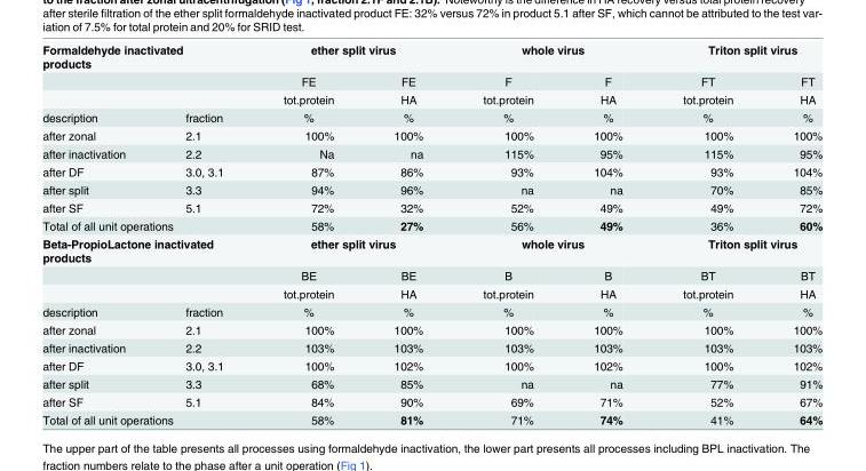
<table><tbody><tr><td rowspan="3" colspan="2">Formaldehyde inactivated products</td><td colspan="2">ether split virus</td><td colspan="2">whole virus</td><td colspan="2">Triton split virus</td></tr><tr><td>FE</td><td>FE</td><td>F</td><td>F</td><td>FT</td><td>FT</td></tr><tr><td>tot.protein</td><td>HA</td><td>tot.protein</td><td>HA</td><td>tot.protein</td><td>HA</td></tr><tr><td>description</td><td>fraction</td><td>%</td><td>%</td><td>%</td><td>%</td><td>%</td><td>%</td></tr><tr><td>after zonal</td><td>2.1</td><td>100%</td><td>100%</td><td>100%</td><td>100%</td><td>100%</td><td>100%</td></tr><tr><td>after inactivation</td><td>2.2</td><td>Na</td><td>na</td><td>115%</td><td>95%</td><td>115%</td><td>95%</td></tr><tr><td>after DF</td><td>3.0, 3.1</td><td>87%</td><td>86%</td><td>93%</td><td>104%</td><td>93%</td><td>104%</td></tr><tr><td>after split</td><td>3.3</td><td>94%</td><td>96%</td><td>na</td><td>na</td><td>70%</td><td>85%</td></tr><tr><td>after SF</td><td>5.1</td><td>72%</td><td>32%</td><td>52%</td><td>49%</td><td>49%</td><td>72%</td></tr><tr><td colspan="2">Total of all unit operations</td><td>58%</td><td>27%</td><td>56%</td><td>49%</td><td>36%</td><td>60%</td></tr><tr><td rowspan="3" colspan="2">Beta-PropioLactone inactivated products</td><td colspan="2">ether split virus</td><td colspan="2">whole virus</td><td colspan="2">Triton split virus</td></tr><tr><td>BE</td><td>BE</td><td>B</td><td>B</td><td>BT</td><td>BT</td></tr><tr><td>tot.protein</td><td>HA</td><td>tot.protein</td><td>HA</td><td>tot.protein</td><td>HA</td></tr><tr><td>description</td><td>fraction</td><td>%</td><td>%</td><td>%</td><td>%</td><td>%</td><td>%</td></tr><tr><td>after zonal</td><td>2.1</td><td>100%</td><td>100%</td><td>100%</td><td>100%</td><td>100%</td><td>100%</td></tr><tr><td>after inactivation</td><td>2.2</td><td>103%</td><td>103%</td><td>103%</td><td>103%</td><td>103%</td><td>103%</td></tr><tr><td>after DF</td><td>3.0, 3.1</td><td>100%</td><td>102%</td><td>100%</td><td>102%</td><td>100%</td><td>102%</td></tr><tr><td>after split</td><td>3.3</td><td>68%</td><td>85%</td><td>na</td><td>na</td><td>77%</td><td>91%</td></tr><tr><td>after SF</td><td>5.1</td><td>84%</td><td>90%</td><td>69%</td><td>71%</td><td>52%</td><td>67%</td></tr><tr><td colspan="2">Total of all unit operations</td><td>58%</td><td>81%</td><td>71%</td><td>74%</td><td>41%</td><td>64%</td></tr></tbody></table>